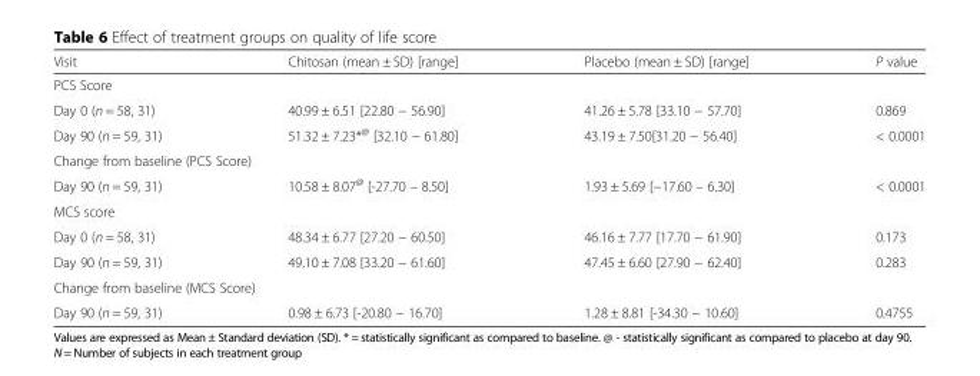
<table><thead><tr><td>Visit</td><td>Chitosan (mean ± SD) [range]</td><td>Placebo (mean ± SD) [range]</td><td>P value</td></tr></thead><tbody><tr><td colspan="4">PCS Score</td></tr><tr><td>Day 0 (n = 58, 31)</td><td>40.99 ± 6.51 [22.80 − 56.90]</td><td>41.26 ± 5.78 [33.10 − 57.70]</td><td>0.869</td></tr><tr><td>Day 90 (n = 59, 31)</td><td>51.32 ± 7.23*<sup>@</sup> [32.10 − 61.80]</td><td>43.19 ± 7.50[31.20 − 56.40]</td><td>&lt; 0.0001</td></tr><tr><td colspan="4">Change from baseline (PCS Score)</td></tr><tr><td>Day 90 (n = 59, 31)</td><td>10.58 ± 8.07<sup>@</sup> [-27.70 – 8.50]</td><td>1.93 ± 5.69 [−17.60 – 6.30]</td><td>&lt; 0.0001</td></tr><tr><td colspan="4">MCS score</td></tr><tr><td>Day 0 (n = 58, 31)</td><td>48.34 ± 6.77 [27.20 − 60.50]</td><td>46.16 ± 7.77 [17.70 − 61.90]</td><td>0.173</td></tr><tr><td>Day 90 (n = 59, 31)</td><td>49.10 ± 7.08 [33.20 − 61.60]</td><td>47.45 ± 6.60 [27.90 − 62.40]</td><td>0.283</td></tr><tr><td colspan="4">Change from baseline (MCS Score)</td></tr><tr><td>Day 90 (n = 59, 31)</td><td>0.98 ± 6.73 [-20.80 − 16.70]</td><td>1.28 ± 8.81 [-34.30 − 10.60]</td><td>0.4755</td></tr></tbody></table>